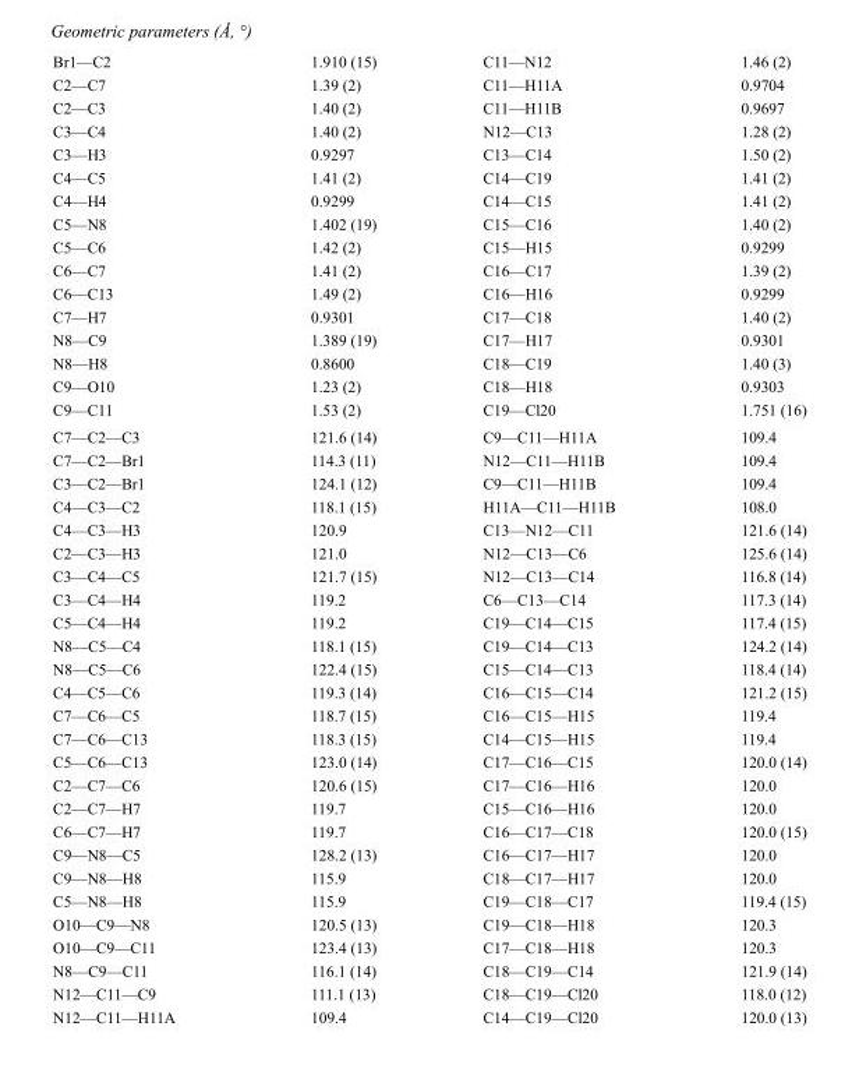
<table><tbody><tr><td>Br1—C2</td><td>1.910 (15)</td><td>C11—N12</td><td>1.46 (2)</td></tr><tr><td>C2—C7</td><td>1.39 (2)</td><td>C11—H11A</td><td>0.9704</td></tr><tr><td>C2—C3</td><td>1.40 (2)</td><td>C11—H11B</td><td>0.9697</td></tr><tr><td>C3—C4</td><td>1.40 (2)</td><td>N12—C13</td><td>1.28 (2)</td></tr><tr><td>C3—H3</td><td>0.9297</td><td>C13—C14</td><td>1.50 (2)</td></tr><tr><td>C4—C5</td><td>1.41 (2)</td><td>C14—C19</td><td>1.41 (2)</td></tr><tr><td>C4—H4</td><td>0.9299</td><td>C14—C15</td><td>1.41 (2)</td></tr><tr><td>C5—N8</td><td>1.402 (19)</td><td>C15—C16</td><td>1.40 (2)</td></tr><tr><td>C5—C6</td><td>1.42 (2)</td><td>C15—H15</td><td>0.9299</td></tr><tr><td>C6—C7</td><td>1.41 (2)</td><td>C16—C17</td><td>1.39 (2)</td></tr><tr><td>C6—C13</td><td>1.49 (2)</td><td>C16—H16</td><td>0.9299</td></tr><tr><td>C7—H7</td><td>0.9301</td><td>C17—C18</td><td>1.40 (2)</td></tr><tr><td>N8—C9</td><td>1.389 (19)</td><td>C17—H17</td><td>0.9301</td></tr><tr><td>N8—H8</td><td>0.8600</td><td>C18—C19</td><td>1.40 (3)</td></tr><tr><td>C9—O10</td><td>1.23 (2)</td><td>C18—H18</td><td>0.9303</td></tr><tr><td>C9—C11</td><td>1.53 (2)</td><td>C19—Cl20</td><td>1.751 (16)</td></tr><tr><td>C7—C2—C3</td><td>121.6 (14)</td><td>C9—C11—H11A</td><td>109.4</td></tr><tr><td>C7—C2—Br1</td><td>114.3 (11)</td><td>N12—C11—H11B</td><td>109.4</td></tr><tr><td>C3—C2—Br1</td><td>124.1 (12)</td><td>C9—C11—H11B</td><td>109.4</td></tr><tr><td>C4—C3—C2</td><td>118.1 (15)</td><td>H11A—C11—H11B</td><td>108.0</td></tr><tr><td>C4—C3—H3</td><td>120.9</td><td>C13—N12—C11</td><td>121.6 (14)</td></tr><tr><td>C2—C3—H3</td><td>121.0</td><td>N12—C13—C6</td><td>125.6 (14)</td></tr><tr><td>C3—C4—C5</td><td>121.7 (15)</td><td>N12—C13—C14</td><td>116.8 (14)</td></tr><tr><td>C3—C4—H4</td><td>119.2</td><td>C6—C13—C14</td><td>117.3 (14)</td></tr><tr><td>C5—C4—H4</td><td>119.2</td><td>C19—C14—C15</td><td>117.4 (15)</td></tr><tr><td>N8—C5—C4</td><td>118.1 (15)</td><td>C19—C14—C13</td><td>124.2 (14)</td></tr><tr><td>N8—C5—C6</td><td>122.4 (15)</td><td>C15—C14—C13</td><td>118.4 (14)</td></tr><tr><td>C4—C5—C6</td><td>119.3 (14)</td><td>C16—C15—C14</td><td>121.2 (15)</td></tr><tr><td>C7—C6—C5</td><td>118.7 (15)</td><td>C16—C15—H15</td><td>119.4</td></tr><tr><td>C7—C6—C13</td><td>118.3 (15)</td><td>C14—C15—H15</td><td>119.4</td></tr><tr><td>C5—C6—C13</td><td>123.0 (14)</td><td>C17—C16—C15</td><td>120.0 (14)</td></tr><tr><td>C2—C7—C6</td><td>120.6 (15)</td><td>C17—C16—H16</td><td>120.0</td></tr><tr><td>C2—C7—H7</td><td>119.7</td><td>C15—C16—H16</td><td>120.0</td></tr><tr><td>C6—C7—H7</td><td>119.7</td><td>C16—C17—C18</td><td>120.0 (15)</td></tr><tr><td>C9—N8—C5</td><td>128.2 (13)</td><td>C16—C17—H17</td><td>120.0</td></tr><tr><td>C9—N8—H8</td><td>115.9</td><td>C18—C17—H17</td><td>120.0</td></tr><tr><td>C5—N8—H8</td><td>115.9</td><td>C19—C18—C17</td><td>119.4 (15)</td></tr><tr><td>O10—C9—N8</td><td>120.5 (13)</td><td>C19—C18—H18</td><td>120.3</td></tr><tr><td>O10—C9—C11</td><td>123.4 (13)</td><td>C17—C18—H18</td><td>120.3</td></tr><tr><td>N8—C9—C11</td><td>116.1 (14)</td><td>C18—C19—C14</td><td>121.9 (14)</td></tr><tr><td>N12—C11—C9</td><td>111.1 (13)</td><td>C18—C19—Cl20</td><td>118.0 (12)</td></tr><tr><td>N12—C11—H11A</td><td>109.4</td><td>C14—C19—Cl20</td><td>120.0 (13)</td></tr></tbody></table>